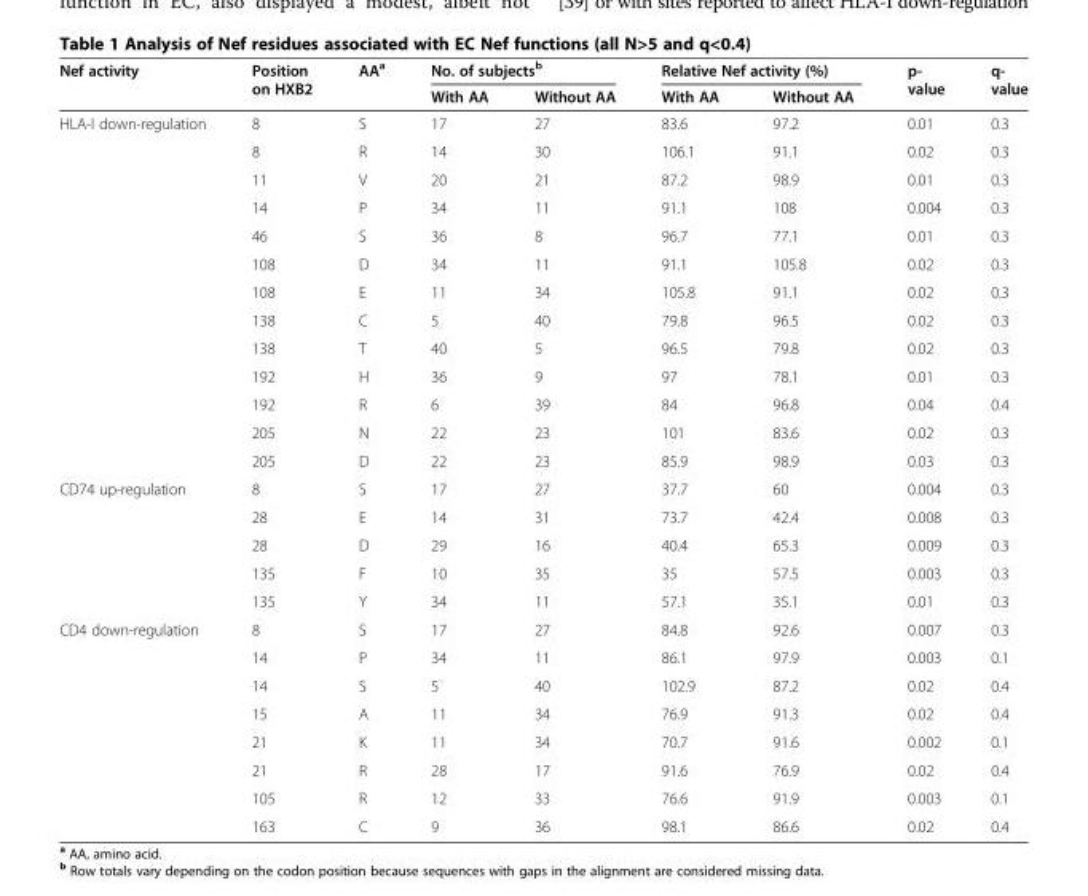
<table><thead><tr><td rowspan="2">Nef activity</td><td rowspan="2">Position on HXB2</td><td rowspan="2">AA<sup>a</sup></td><td colspan="2">No. of subjects<sup>b</sup></td><td colspan="2">Relative Nef activity (%)</td><td rowspan="2">p- value</td><td rowspan="2">q- value</td></tr><tr><td>With AA</td><td>Without AA</td><td>With AA</td><td>Without AA</td></tr></thead><tbody><tr><td rowspan="13">HLA-I down-regulation</td><td>8</td><td>S</td><td>17</td><td>27</td><td>83.6</td><td>97.2</td><td>0.01</td><td>0.3</td></tr><tr><td>8</td><td>R</td><td>14</td><td>30</td><td>106.1</td><td>91.1</td><td>0.02</td><td>0.3</td></tr><tr><td>11</td><td>V</td><td>20</td><td>21</td><td>87.2</td><td>98.9</td><td>0.01</td><td>0.3</td></tr><tr><td>14</td><td>P</td><td>34</td><td>11</td><td>91.1</td><td>108</td><td>0.004</td><td>0.3</td></tr><tr><td>46</td><td>S</td><td>36</td><td>8</td><td>96.7</td><td>77.1</td><td>0.01</td><td>0.3</td></tr><tr><td>108</td><td>D</td><td>34</td><td>11</td><td>91.1</td><td>105.8</td><td>0.02</td><td>0.3</td></tr><tr><td>108</td><td>E</td><td>11</td><td>34</td><td>105.8</td><td>91.1</td><td>0.02</td><td>0.3</td></tr><tr><td>138</td><td>C</td><td>5</td><td>40</td><td>79.8</td><td>96.5</td><td>0.02</td><td>0.3</td></tr><tr><td>138</td><td>T</td><td>40</td><td>5</td><td>96.5</td><td>79.8</td><td>0.02</td><td>0.3</td></tr><tr><td>192</td><td>H</td><td>36</td><td>9</td><td>97</td><td>78.1</td><td>0.01</td><td>0.3</td></tr><tr><td>192</td><td>R</td><td>6</td><td>39</td><td>84</td><td>96.8</td><td>0.04</td><td>0.4</td></tr><tr><td>205</td><td>N</td><td>22</td><td>23</td><td>101</td><td>83.6</td><td>0.02</td><td>0.3</td></tr><tr><td>205</td><td>D</td><td>22</td><td>23</td><td>85.9</td><td>98.9</td><td>0.03</td><td>0.3</td></tr><tr><td rowspan="5">CD74 up-regulation</td><td>8</td><td>S</td><td>17</td><td>27</td><td>37.7</td><td>60</td><td>0.004</td><td>0.3</td></tr><tr><td>28</td><td>E</td><td>14</td><td>31</td><td>73.7</td><td>42.4</td><td>0.008</td><td>0.3</td></tr><tr><td>28</td><td>D</td><td>29</td><td>16</td><td>40.4</td><td>65.3</td><td>0.009</td><td>0.3</td></tr><tr><td>135</td><td>F</td><td>10</td><td>35</td><td>35</td><td>57.5</td><td>0.003</td><td>0.3</td></tr><tr><td>135</td><td>Y</td><td>34</td><td>11</td><td>57.1</td><td>35.1</td><td>0.01</td><td>0.3</td></tr><tr><td rowspan="8">CD4 down-regulation</td><td>8</td><td>S</td><td>17</td><td>27</td><td>84.8</td><td>92.6</td><td>0.007</td><td>0.3</td></tr><tr><td>14</td><td>P</td><td>34</td><td>11</td><td>86.1</td><td>97.9</td><td>0.003</td><td>0.1</td></tr><tr><td>14</td><td>S</td><td>5</td><td>40</td><td>102.9</td><td>87.2</td><td>0.02</td><td>0.4</td></tr><tr><td>15</td><td>A</td><td>11</td><td>34</td><td>76.9</td><td>91.3</td><td>0.02</td><td>0.4</td></tr><tr><td>21</td><td>K</td><td>11</td><td>34</td><td>70.7</td><td>91.6</td><td>0.002</td><td>0.1</td></tr><tr><td>21</td><td>R</td><td>28</td><td>17</td><td>91.6</td><td>76.9</td><td>0.02</td><td>0.4</td></tr><tr><td>105</td><td>R</td><td>12</td><td>33</td><td>76.6</td><td>91.9</td><td>0.003</td><td>0.1</td></tr><tr><td>163</td><td>C</td><td>9</td><td>36</td><td>98.1</td><td>86.6</td><td>0.02</td><td>0.4</td></tr></tbody></table>